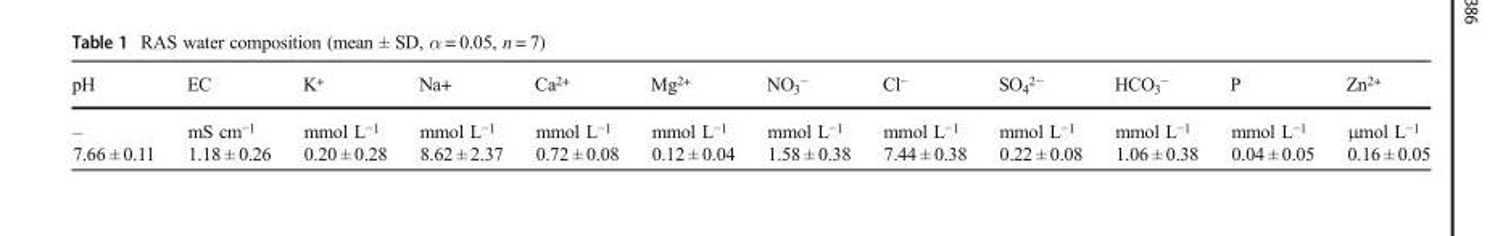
<table><thead><tr><td>pH</td><td>EC</td><td>K<sup>+</sup></td><td>Na+</td><td>Ca<sup>2+</sup></td><td>Mg<sup>2+</sup></td><td>NO<sub>3</sub><sup>−</sup></td><td>Cl<sup>−</sup></td><td>SO<sub>4</sub><sup>2−</sup></td><td>HCO<sub>3</sub><sup>−</sup></td><td>P</td><td>Zn<sup>2+</sup></td></tr></thead><tbody><tr><td>–</td><td>mS cm<sup>−1</sup></td><td>mmol L<sup>−1</sup></td><td>mmol L<sup>−1</sup></td><td>mmol L<sup>−1</sup></td><td>mmol L<sup>−1</sup></td><td>mmol L<sup>−1</sup></td><td>mmol L<sup>−1</sup></td><td>mmol L<sup>−1</sup></td><td>mmol L<sup>−1</sup></td><td>mmol L<sup>−1</sup></td><td>μmol L<sup>−1</sup></td></tr><tr><td>7.66 ± 0.11</td><td>1.18 ± 0.26</td><td>0.20 ± 0.28</td><td>8.62 ± 2.37</td><td>0.72 ± 0.08</td><td>0.12 ± 0.04</td><td>1.58 ± 0.38</td><td>7.44 ± 0.38</td><td>0.22 ± 0.08</td><td>1.06 ± 0.38</td><td>0.04 ± 0.05</td><td>0.16 ± 0.05</td></tr></tbody></table>